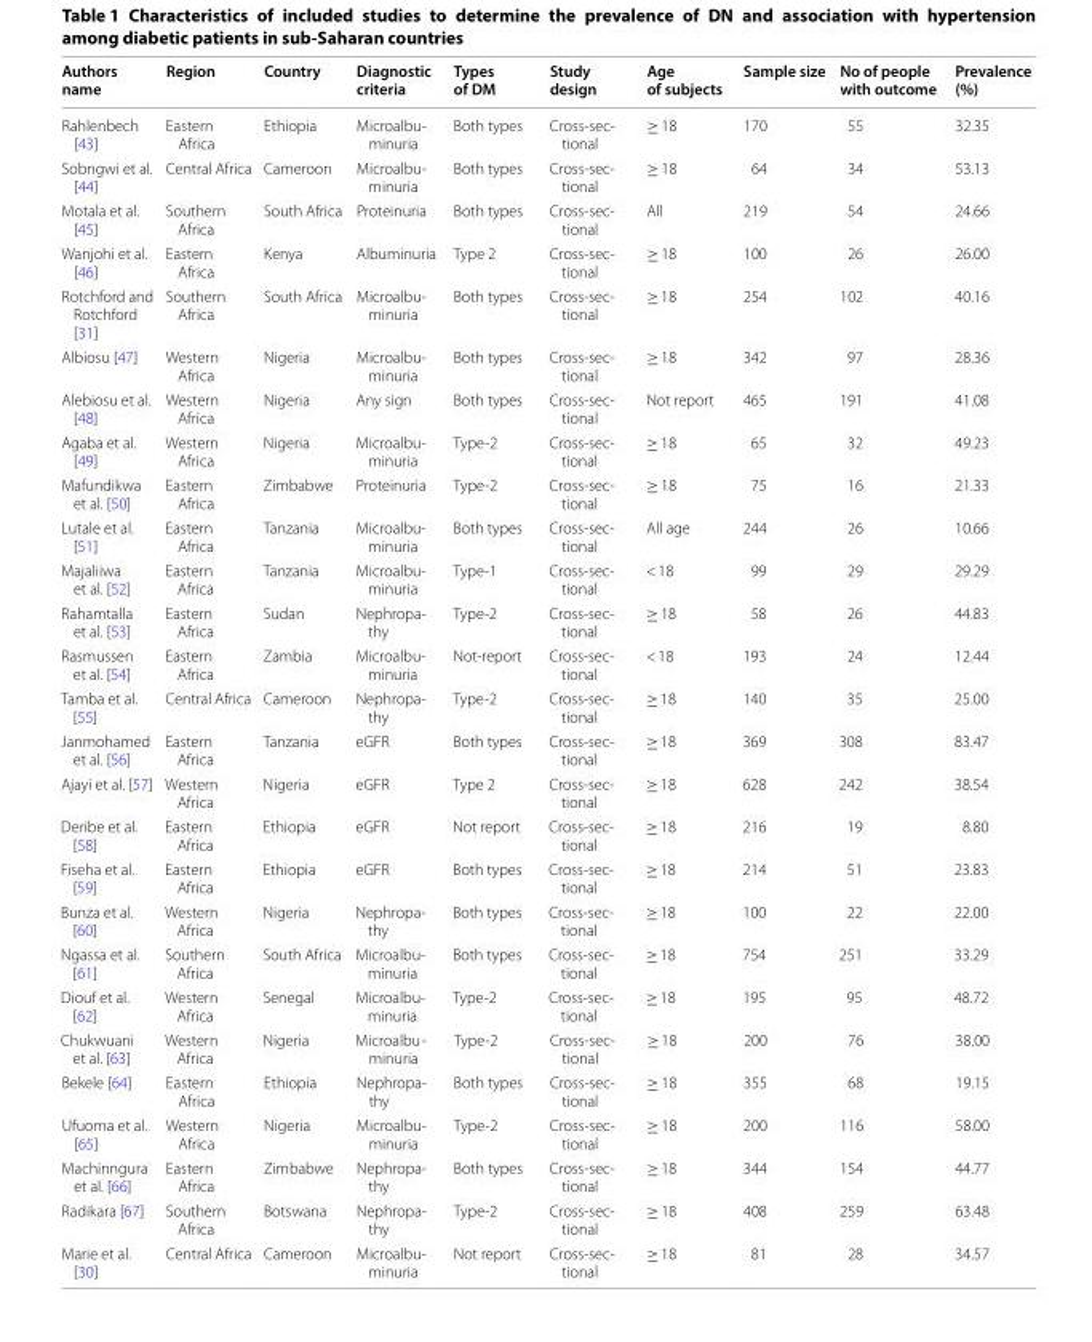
<table><thead><tr><td>Authors name</td><td>Region</td><td>Country</td><td>Diagnostic criteria</td><td>Types of DM</td><td>Study design</td><td>Age of subjects</td><td>Sample size</td><td>No of people with outcome</td><td>Prevalence (%)</td></tr></thead><tbody><tr><td>Rahlenbech [43]</td><td>Eastern Africa</td><td>Ethiopia</td><td>Microalbu- minuria</td><td>Both types</td><td>Cross-sec- tional</td><td>≥ 18</td><td>170</td><td>55</td><td>32.35</td></tr><tr><td>Sobngwi et al. [44]</td><td>Central Africa</td><td>Cameroon</td><td>Microalbu- minuria</td><td>Both types</td><td>Cross-sec- tional</td><td>≥ 18</td><td>64</td><td>34</td><td>53.13</td></tr><tr><td>Motala et al. [45]</td><td>Southern Africa</td><td>South Africa</td><td>Proteinuria</td><td>Both types</td><td>Cross-sec- tional</td><td>All</td><td>219</td><td>54</td><td>24.66</td></tr><tr><td>Wanjohi et al. [46]</td><td>Eastern Africa</td><td>Kenya</td><td>Albuminuria</td><td>Type 2</td><td>Cross-sec- tional</td><td>≥ 18</td><td>100</td><td>26</td><td>26.00</td></tr><tr><td>Rotchford and Rotchford [31]</td><td>Southern Africa</td><td>South Africa</td><td>Microalbu- minuria</td><td>Both types</td><td>Cross-sec- tional</td><td>≥ 18</td><td>254</td><td>102</td><td>40.16</td></tr><tr><td>Albiosu [47]</td><td>Western Africa</td><td>Nigeria</td><td>Microalbu- minuria</td><td>Both types</td><td>Cross-sec- tional</td><td>≥ 18</td><td>342</td><td>97</td><td>28.36</td></tr><tr><td>Alebiosu et al. [48]</td><td>Western Africa</td><td>Nigeria</td><td>Any sign</td><td>Both types</td><td>Cross-sec- tional</td><td>Not report</td><td>465</td><td>191</td><td>41.08</td></tr><tr><td>Agaba et al. [49]</td><td>Western Africa</td><td>Nigeria</td><td>Microalbu- minuria</td><td>Type-2</td><td>Cross-sec- tional</td><td>≥ 18</td><td>65</td><td>32</td><td>49.23</td></tr><tr><td>Mafundikwa et al. [50]</td><td>Eastern Africa</td><td>Zimbabwe</td><td>Proteinuria</td><td>Type-2</td><td>Cross-sec- tional</td><td>≥ 18</td><td>75</td><td>16</td><td>21.33</td></tr><tr><td>Lutale et al. [51]</td><td>Eastern Africa</td><td>Tanzania</td><td>Microalbu- minuria</td><td>Both types</td><td>Cross-sec- tional</td><td>All age</td><td>244</td><td>26</td><td>10.66</td></tr><tr><td>Majaliiwa et al. [52]</td><td>Eastern Africa</td><td>Tanzania</td><td>Microalbu- minuria</td><td>Type-1</td><td>Cross-sec- tional</td><td>&lt; 18</td><td>99</td><td>29</td><td>29.29</td></tr><tr><td>Rahamtalla et al. [53]</td><td>Eastern Africa</td><td>Sudan</td><td>Nephropa- thy</td><td>Type-2</td><td>Cross-sec- tional</td><td>≥ 18</td><td>58</td><td>26</td><td>44.83</td></tr><tr><td>Rasmussen et al. [54]</td><td>Eastern Africa</td><td>Zambia</td><td>Microalbu- minuria</td><td>Not-report</td><td>Cross-sec- tional</td><td>&lt; 18</td><td>193</td><td>24</td><td>12.44</td></tr><tr><td>Tamba et al. [55]</td><td>Central Africa</td><td>Cameroon</td><td>Nephropa- thy</td><td>Type-2</td><td>Cross-sec- tional</td><td>≥ 18</td><td>140</td><td>35</td><td>25.00</td></tr><tr><td>Janmohamed et al. [56]</td><td>Eastern Africa</td><td>Tanzania</td><td>eGFR</td><td>Both types</td><td>Cross-sec- tional</td><td>≥ 18</td><td>369</td><td>308</td><td>83.47</td></tr><tr><td>Ajayi et al. [57]</td><td>Western Africa</td><td>Nigeria</td><td>eGFR</td><td>Type 2</td><td>Cross-sec- tional</td><td>≥ 18</td><td>628</td><td>242</td><td>38.54</td></tr><tr><td>Deribe et al. [58]</td><td>Eastern Africa</td><td>Ethiopia</td><td>eGFR</td><td>Not report</td><td>Cross-sec- tional</td><td>≥ 18</td><td>216</td><td>19</td><td>8.80</td></tr><tr><td>Fiseha et al. [59]</td><td>Eastern Africa</td><td>Ethiopia</td><td>eGFR</td><td>Both types</td><td>Cross-sec- tional</td><td>≥ 18</td><td>214</td><td>51</td><td>23.83</td></tr><tr><td>Bunza et al. [60]</td><td>Western Africa</td><td>Nigeria</td><td>Nephropa- thy</td><td>Both types</td><td>Cross-sec- tional</td><td>≥ 18</td><td>100</td><td>22</td><td>22.00</td></tr><tr><td>Ngassa et al. [61]</td><td>Southern Africa</td><td>South Africa</td><td>Microalbu- minuria</td><td>Both types</td><td>Cross-sec- tional</td><td>≥ 18</td><td>754</td><td>251</td><td>33.29</td></tr><tr><td>Diouf et al. [62]</td><td>Western Africa</td><td>Senegal</td><td>Microalbu- minuria</td><td>Type-2</td><td>Cross-sec- tional</td><td>≥ 18</td><td>195</td><td>95</td><td>48.72</td></tr><tr><td>Chukwuani et al. [63]</td><td>Western Africa</td><td>Nigeria</td><td>Microalbu- minuria</td><td>Type-2</td><td>Cross-sec- tional</td><td>≥ 18</td><td>200</td><td>76</td><td>38.00</td></tr><tr><td>Bekele [64]</td><td>Eastern Africa</td><td>Ethiopia</td><td>Nephropa- thy</td><td>Both types</td><td>Cross-sec- tional</td><td>≥ 18</td><td>355</td><td>68</td><td>19.15</td></tr><tr><td>Ufuoma et al. [65]</td><td>Western Africa</td><td>Nigeria</td><td>Microalbu- minuria</td><td>Type-2</td><td>Cross-sec- tional</td><td>≥ 18</td><td>200</td><td>116</td><td>58.00</td></tr><tr><td>Machinngura et al. [66]</td><td>Eastern Africa</td><td>Zimbabwe</td><td>Nephropa- thy</td><td>Both types</td><td>Cross-sec- tional</td><td>≥ 18</td><td>344</td><td>154</td><td>44.77</td></tr><tr><td>Radikara [67]</td><td>Southern Africa</td><td>Botswana</td><td>Nephropa- thy</td><td>Type-2</td><td>Cross-sec- tional</td><td>≥ 18</td><td>408</td><td>259</td><td>63.48</td></tr><tr><td>Marie et al. [30]</td><td>Central Africa</td><td>Cameroon</td><td>Microalbu- minuria</td><td>Not report</td><td>Cross-sec- tional</td><td>≥ 18</td><td>81</td><td>28</td><td>34.57</td></tr></tbody></table>